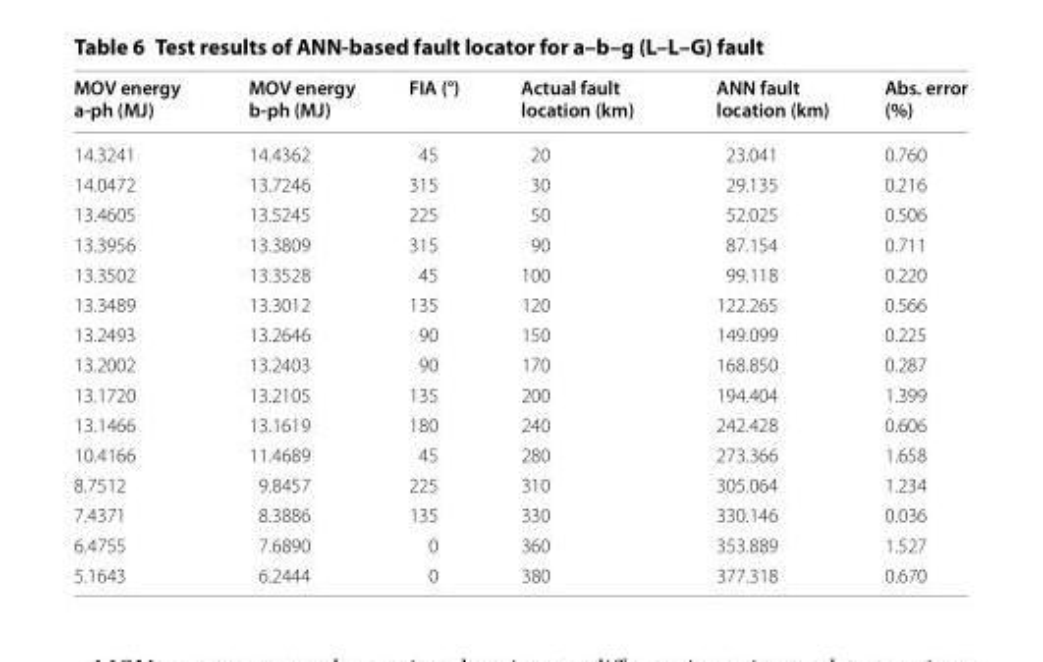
<table><thead><tr><td>MOV energy a-ph (MJ)</td><td>MOV energy b-ph (MJ)</td><td>FIA (°)</td><td>Actual fault location (km)</td><td>ANN fault location (km)</td><td>Abs. error (%)</td></tr></thead><tbody><tr><td>14.3241</td><td>14.4362</td><td>45</td><td>20</td><td>23.041</td><td>0.760</td></tr><tr><td>14.0472</td><td>13.7246</td><td>315</td><td>30</td><td>29.135</td><td>0.216</td></tr><tr><td>13.4605</td><td>13.5245</td><td>225</td><td>50</td><td>52.025</td><td>0.506</td></tr><tr><td>13.3956</td><td>13.3809</td><td>315</td><td>90</td><td>87.154</td><td>0.711</td></tr><tr><td>13.3502</td><td>13.3528</td><td>45</td><td>100</td><td>99.118</td><td>0.220</td></tr><tr><td>13.3489</td><td>13.3012</td><td>135</td><td>120</td><td>122.265</td><td>0.566</td></tr><tr><td>13.2493</td><td>13.2646</td><td>90</td><td>150</td><td>149.099</td><td>0.225</td></tr><tr><td>13.2002</td><td>13.2403</td><td>90</td><td>170</td><td>168.850</td><td>0.287</td></tr><tr><td>13.1720</td><td>13.2105</td><td>135</td><td>200</td><td>194.404</td><td>1.399</td></tr><tr><td>13.1466</td><td>13.1619</td><td>180</td><td>240</td><td>242.428</td><td>0.606</td></tr><tr><td>10.4166</td><td>11.4689</td><td>45</td><td>280</td><td>273.366</td><td>1.658</td></tr><tr><td>8.7512</td><td>9.8457</td><td>225</td><td>310</td><td>305.064</td><td>1.234</td></tr><tr><td>7.4371</td><td>8.3886</td><td>135</td><td>330</td><td>330.146</td><td>0.036</td></tr><tr><td>6.4755</td><td>7.6890</td><td>0</td><td>360</td><td>353.889</td><td>1.527</td></tr><tr><td>5.1643</td><td>6.2444</td><td>0</td><td>380</td><td>377.318</td><td>0.670</td></tr></tbody></table>